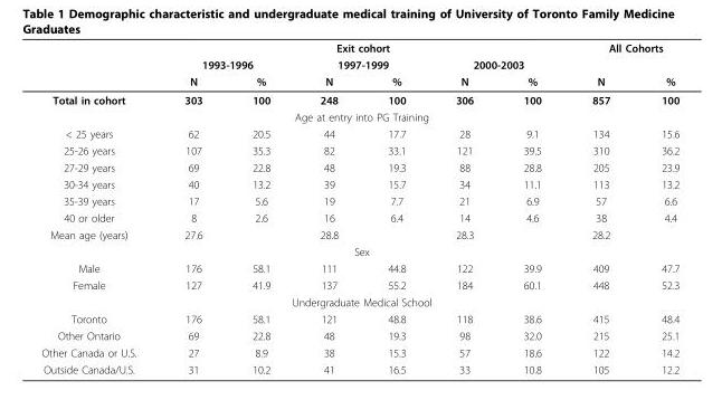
<table><thead><tr><td rowspan="3"></td><td colspan="6">Exit cohort</td><td colspan="2">All Cohorts</td></tr><tr><td colspan="2">1993-1996</td><td colspan="2">1997-1999</td><td colspan="2">2000-2003</td><td rowspan="2">N</td><td rowspan="2">%</td></tr><tr><td>N</td><td>%</td><td>N</td><td>%</td><td>N</td><td>%</td></tr></thead><tbody><tr><td>Total in cohort</td><td>303</td><td>100</td><td>248</td><td>100</td><td>306</td><td>100</td><td>857</td><td>100</td></tr><tr><td colspan="9">Age at entry into PG Training</td></tr><tr><td>&lt; 25 years</td><td>62</td><td>20.5</td><td>44</td><td>17.7</td><td>28</td><td>9.1</td><td>134</td><td>15.6</td></tr><tr><td>25-26 years</td><td>107</td><td>35.3</td><td>82</td><td>33.1</td><td>121</td><td>39.5</td><td>310</td><td>36.2</td></tr><tr><td>27-29 years</td><td>69</td><td>22.8</td><td>48</td><td>19.3</td><td>88</td><td>28.8</td><td>205</td><td>23.9</td></tr><tr><td>30-34 years</td><td>40</td><td>13.2</td><td>39</td><td>15.7</td><td>34</td><td>11.1</td><td>113</td><td>13.2</td></tr><tr><td>35-39 years</td><td>17</td><td>5.6</td><td>19</td><td>7.7</td><td>21</td><td>6.9</td><td>57</td><td>6.6</td></tr><tr><td>40 or older</td><td>8</td><td>2.6</td><td>16</td><td>6.4</td><td>14</td><td>4.6</td><td>38</td><td>4.4</td></tr><tr><td>Mean age (years)</td><td>27.6</td><td></td><td>28.8</td><td></td><td>28.3</td><td></td><td>28.2</td><td></td></tr><tr><td colspan="9">Sex</td></tr><tr><td>Male</td><td>176</td><td>58.1</td><td>111</td><td>44.8</td><td>122</td><td>39.9</td><td>409</td><td>47.7</td></tr><tr><td>Female</td><td>127</td><td>41.9</td><td>137</td><td>55.2</td><td>184</td><td>60.1</td><td>448</td><td>52.3</td></tr><tr><td colspan="9">Undergraduate Medical School</td></tr><tr><td>Toronto</td><td>176</td><td>58.1</td><td>121</td><td>48.8</td><td>118</td><td>38.6</td><td>415</td><td>48.4</td></tr><tr><td>Other Ontario</td><td>69</td><td>22.8</td><td>48</td><td>19.3</td><td>98</td><td>32.0</td><td>215</td><td>25.1</td></tr><tr><td>Other Canada or U.S.</td><td>27</td><td>8.9</td><td>38</td><td>15.3</td><td>57</td><td>18.6</td><td>122</td><td>14.2</td></tr><tr><td>Outside Canada/U.S.</td><td>31</td><td>10.2</td><td>41</td><td>16.5</td><td>33</td><td>10.8</td><td>105</td><td>12.2</td></tr></tbody></table>